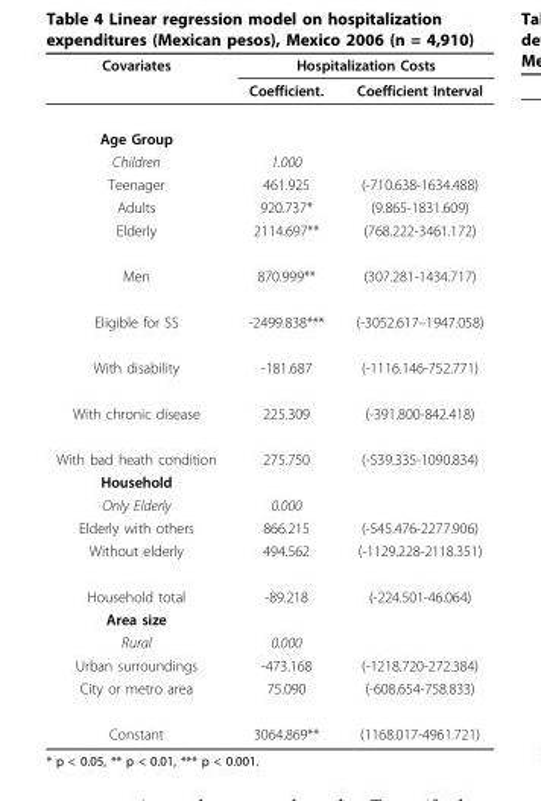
<table><thead><tr><td rowspan="2">Covariates</td><td colspan="2">Hospitalization Costs</td></tr><tr><td>Coefficient.</td><td>Coefficient Interval</td></tr></thead><tbody><tr><td colspan="3">Age Group</td></tr><tr><td>Children</td><td>1.000</td><td></td></tr><tr><td>Teenager</td><td>461.925</td><td>(-710.638-1634.488)</td></tr><tr><td>Adults</td><td>920.737*</td><td>(9.865-1831.609)</td></tr><tr><td>Elderly</td><td>2114.697**</td><td>(768.222-3461.172)</td></tr><tr><td>Men</td><td>870.999**</td><td>(307.281-1434.717)</td></tr><tr><td>Eligible for SS</td><td>-2499.838***</td><td>(-3052.617–1947.058)</td></tr><tr><td>With disability</td><td>-181.687</td><td>(-1116.146-752.771)</td></tr><tr><td>With chronic disease</td><td>225.309</td><td>(-391.800-842.418)</td></tr><tr><td>With bad heath condition</td><td>275.750</td><td>(-539.335-1090.834)</td></tr><tr><td colspan="3">Household</td></tr><tr><td>Only Elderly</td><td>0.000</td><td></td></tr><tr><td>Elderly with others</td><td>866.215</td><td>(-545.476-2277.906)</td></tr><tr><td>Without elderly</td><td>494.562</td><td>(-1129.228-2118.351)</td></tr><tr><td>Household total</td><td>-89.218</td><td>(-224.501-46.064)</td></tr><tr><td colspan="3">Area size</td></tr><tr><td>Rural</td><td>0.000</td><td></td></tr><tr><td>Urban surroundings</td><td>-473.168</td><td>(-1218.720-272.384)</td></tr><tr><td>City or metro area</td><td>75.090</td><td>(-608.654-758.833)</td></tr><tr><td>Constant</td><td>3064.869**</td><td>(1168.017-4961.721)</td></tr></tbody></table>